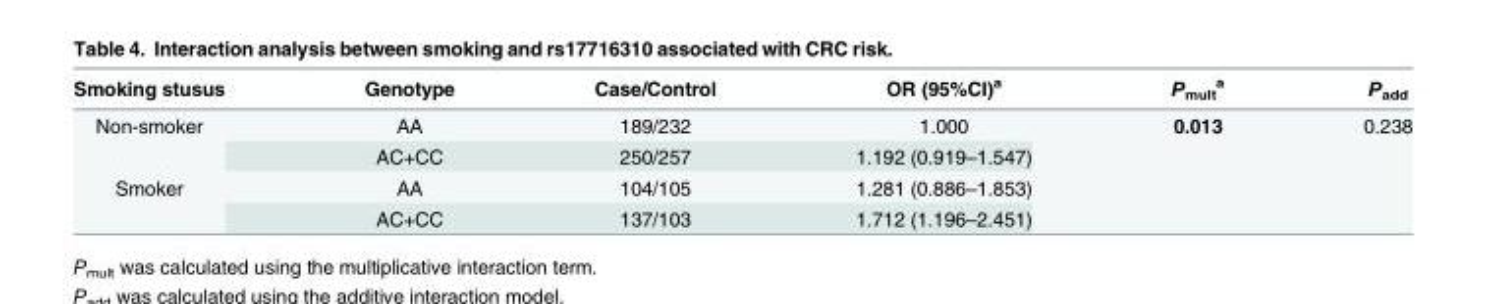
<table><thead><tr><td>Smoking stusus</td><td>Genotype</td><td>Case/Control</td><td>OR (95%CI)<sup>a</sup></td><td>P<sub>mult</sub> <sup>a</sup></td><td>P<sub>add</sub></td></tr></thead><tbody><tr><td rowspan="2">Non-smoker</td><td>AA</td><td>189/232</td><td>1.000</td><td rowspan="4">0.013</td><td rowspan="4">0.238</td></tr><tr><td>AC+CC</td><td>250/257</td><td>1.192 (0.919–1.547)</td></tr><tr><td rowspan="2">Smoker</td><td>AA</td><td>104/105</td><td>1.281 (0.886–1.853)</td></tr><tr><td>AC+CC</td><td>137/103</td><td>1.712 (1.196–2.451)</td></tr></tbody></table>